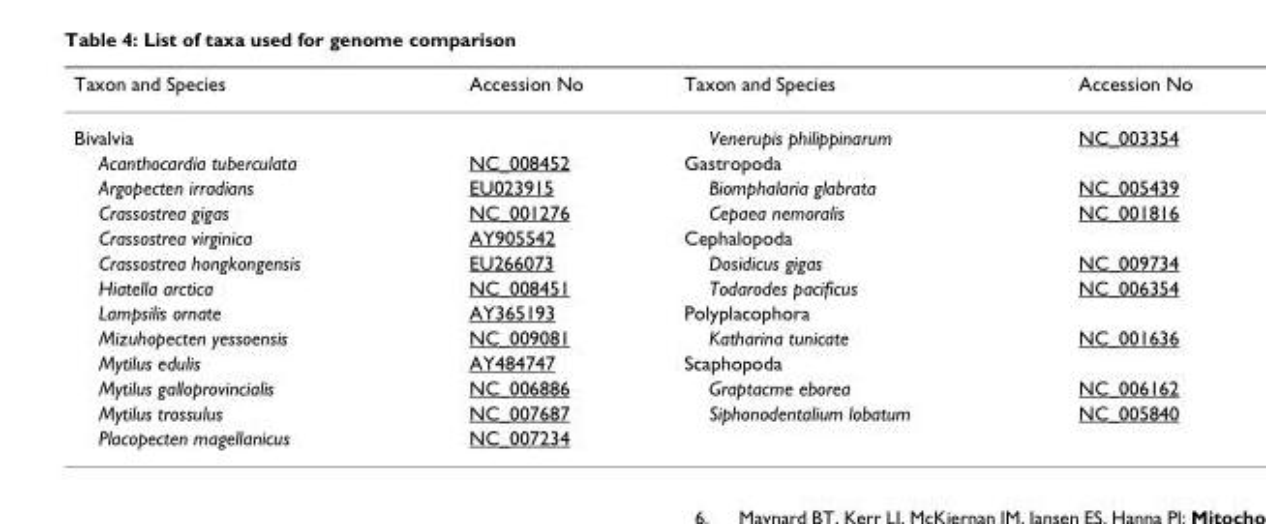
<table><thead><tr><td>Taxon and Species</td><td>Accession No</td><td>Taxon and Species</td><td>Accession No</td></tr></thead><tbody><tr><td>Bivalvia</td><td></td><td>Venerupis philippinarum</td><td>NC_003354</td></tr><tr><td>Acanthocardia tuberculata</td><td>NC_008452</td><td>Gastropoda</td><td></td></tr><tr><td>Argopecten irradians</td><td>EU023915</td><td>Biomphalaria glabrata</td><td>NC_005439</td></tr><tr><td>Crassostrea gigas</td><td>NC_001276</td><td>Cepaea nemoralis</td><td>NC_001816</td></tr><tr><td>Crassostrea virginica</td><td>AY905542</td><td>Cephalopoda</td><td></td></tr><tr><td>Crassostrea hongkongensis</td><td>EU266073</td><td>Dosidicus gigas</td><td>NC_009734</td></tr><tr><td>Hiatella arctica</td><td>NC_008451</td><td>Todarodes pacificus</td><td>NC_006354</td></tr><tr><td>Lampsilis ornate</td><td>AY365193</td><td>Polyplacophora</td><td></td></tr><tr><td>Mizuhopecten yessoensis</td><td>NC_009081</td><td>Katharina tunicate</td><td>NC_001636</td></tr><tr><td>Mytilus edulis</td><td>AY484747</td><td>Scaphopoda</td><td></td></tr><tr><td>Mytilus galloprovincialis</td><td>NC_006886</td><td>Graptacme eborea</td><td>NC_006162</td></tr><tr><td>Mytilus trossulus</td><td>NC_007687</td><td>Siphonodentalium lobatum</td><td>NC_005840</td></tr><tr><td>Placopecten magellanicus</td><td>NC_007234</td><td></td><td></td></tr></tbody></table>